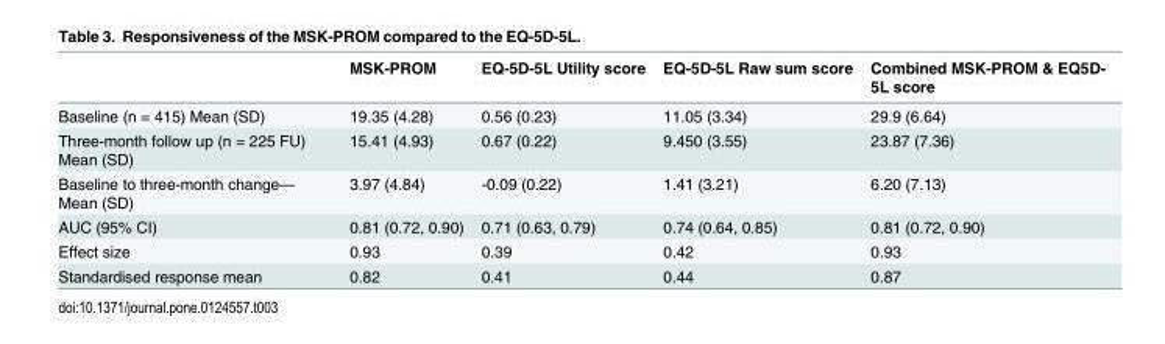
<table><thead><tr><td></td><td>MSK-PROM</td><td>EQ-5D-5L Utility score</td><td>EQ-5D-5L Raw sum score</td><td>Combined MSK-PROM &amp; EQ5D- 5L score</td></tr></thead><tbody><tr><td>Baseline (n = 415) Mean (SD)</td><td>19.35 (4.28)</td><td>0.56 (0.23)</td><td>11.05 (3.34)</td><td>29.9 (6.64)</td></tr><tr><td>Three-month follow up (n = 225 FU) Mean (SD)</td><td>15.41 (4.93)</td><td>0.67 (0.22)</td><td>9.450 (3.55)</td><td>23.87 (7.36)</td></tr><tr><td>Baseline to three-month change— Mean (SD)</td><td>3.97 (4.84)</td><td>-0.09 (0.22)</td><td>1.41 (3.21)</td><td>6.20 (7.13)</td></tr><tr><td>AUC (95% CI)</td><td>0.81 (0.72, 0.90)</td><td>0.71 (0.63, 0.79)</td><td>0.74 (0.64, 0.85)</td><td>0.81 (0.72, 0.90)</td></tr><tr><td>Effect size</td><td>0.93</td><td>0.39</td><td>0.42</td><td>0.93</td></tr><tr><td>Standardised response mean</td><td>0.82</td><td>0.41</td><td>0.44</td><td>0.87</td></tr></tbody></table>